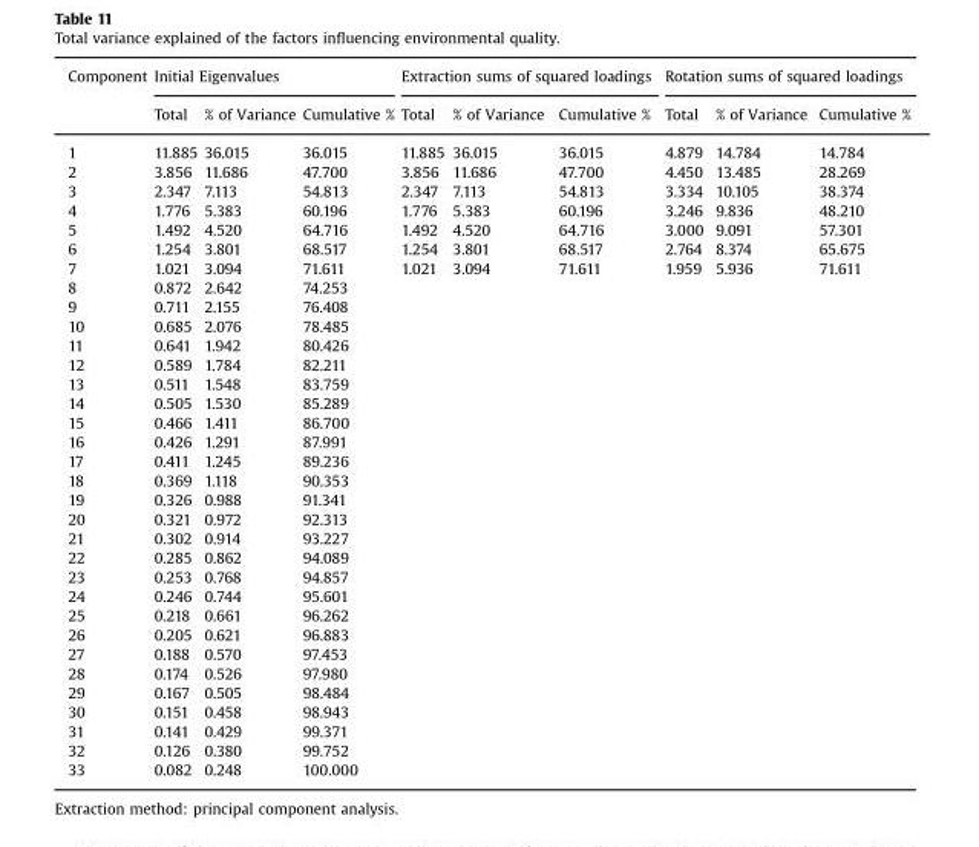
<table><thead><tr><td rowspan="2">Component</td><td colspan="3">Initial Eigenvalues</td><td colspan="3">Extraction sums of squared loadings</td><td colspan="3">Rotation sums of squared loadings</td></tr><tr><td>Total</td><td>% of Variance</td><td>Cumulative %</td><td>Total</td><td>% of Variance</td><td>Cumulative %</td><td>Total</td><td>% of Variance</td><td>Cumulative %</td></tr></thead><tbody><tr><td>1</td><td>11.885</td><td>36.015</td><td>36.015</td><td>11.885</td><td>36.015</td><td>36.015</td><td>4.879</td><td>14.784</td><td>14.784</td></tr><tr><td>2</td><td>3.856</td><td>11.686</td><td>47.700</td><td>3.856</td><td>11.686</td><td>47.700</td><td>4.450</td><td>13.485</td><td>28.269</td></tr><tr><td>3</td><td>2.347</td><td>7.113</td><td>54.813</td><td>2.347</td><td>7.113</td><td>54.813</td><td>3.334</td><td>10.105</td><td>38.374</td></tr><tr><td>4</td><td>1.776</td><td>5.383</td><td>60.196</td><td>1.776</td><td>5.383</td><td>60.196</td><td>3.246</td><td>9.836</td><td>48.210</td></tr><tr><td>5</td><td>1.492</td><td>4.520</td><td>64.716</td><td>1.492</td><td>4.520</td><td>64.716</td><td>3.000</td><td>9.091</td><td>57.301</td></tr><tr><td>6</td><td>1.254</td><td>3.801</td><td>68.517</td><td>1.254</td><td>3.801</td><td>68.517</td><td>2.764</td><td>8.374</td><td>65.675</td></tr><tr><td>7</td><td>1.021</td><td>3.094</td><td>71.611</td><td>1.021</td><td>3.094</td><td>71.611</td><td>1.959</td><td>5.936</td><td>71.611</td></tr><tr><td>8</td><td>0.872</td><td>2.642</td><td>74.253</td><td></td><td></td><td></td><td></td><td></td><td></td></tr><tr><td>9</td><td>0.711</td><td>2.155</td><td>76.408</td><td></td><td></td><td></td><td></td><td></td><td></td></tr><tr><td>10</td><td>0.685</td><td>2.076</td><td>78.485</td><td></td><td></td><td></td><td></td><td></td><td></td></tr><tr><td>11</td><td>0.641</td><td>1.942</td><td>80.426</td><td></td><td></td><td></td><td></td><td></td><td></td></tr><tr><td>12</td><td>0.589</td><td>1.784</td><td>82.211</td><td></td><td></td><td></td><td></td><td></td><td></td></tr><tr><td>13</td><td>0.511</td><td>1.548</td><td>83.759</td><td></td><td></td><td></td><td></td><td></td><td></td></tr><tr><td>14</td><td>0.505</td><td>1.530</td><td>85.289</td><td></td><td></td><td></td><td></td><td></td><td></td></tr><tr><td>15</td><td>0.466</td><td>1.411</td><td>86.700</td><td></td><td></td><td></td><td></td><td></td><td></td></tr><tr><td>16</td><td>0.426</td><td>1.291</td><td>87.991</td><td></td><td></td><td></td><td></td><td></td><td></td></tr><tr><td>17</td><td>0.411</td><td>1.245</td><td>89.236</td><td></td><td></td><td></td><td></td><td></td><td></td></tr><tr><td>18</td><td>0.369</td><td>1.118</td><td>90.353</td><td></td><td></td><td></td><td></td><td></td><td></td></tr><tr><td>19</td><td>0.326</td><td>0.988</td><td>91.341</td><td></td><td></td><td></td><td></td><td></td><td></td></tr><tr><td>20</td><td>0.321</td><td>0.972</td><td>92.313</td><td></td><td></td><td></td><td></td><td></td><td></td></tr><tr><td>21</td><td>0.302</td><td>0.914</td><td>93.227</td><td></td><td></td><td></td><td></td><td></td><td></td></tr><tr><td>22</td><td>0.285</td><td>0.862</td><td>94.089</td><td></td><td></td><td></td><td></td><td></td><td></td></tr><tr><td>23</td><td>0.253</td><td>0.768</td><td>94.857</td><td></td><td></td><td></td><td></td><td></td><td></td></tr><tr><td>24</td><td>0.246</td><td>0.744</td><td>95.601</td><td></td><td></td><td></td><td></td><td></td><td></td></tr><tr><td>25</td><td>0.218</td><td>0.661</td><td>96.262</td><td></td><td></td><td></td><td></td><td></td><td></td></tr><tr><td>26</td><td>0.205</td><td>0.621</td><td>96.883</td><td></td><td></td><td></td><td></td><td></td><td></td></tr><tr><td>27</td><td>0.188</td><td>0.570</td><td>97.453</td><td></td><td></td><td></td><td></td><td></td><td></td></tr><tr><td>28</td><td>0.174</td><td>0.526</td><td>97.980</td><td></td><td></td><td></td><td></td><td></td><td></td></tr><tr><td>29</td><td>0.167</td><td>0.505</td><td>98.484</td><td></td><td></td><td></td><td></td><td></td><td></td></tr><tr><td>30</td><td>0.151</td><td>0.458</td><td>98.943</td><td></td><td></td><td></td><td></td><td></td><td></td></tr><tr><td>31</td><td>0.141</td><td>0.429</td><td>99.371</td><td></td><td></td><td></td><td></td><td></td><td></td></tr><tr><td>32</td><td>0.126</td><td>0.380</td><td>99.752</td><td></td><td></td><td></td><td></td><td></td><td></td></tr><tr><td>33</td><td>0.082</td><td>0.248</td><td>100.000</td><td></td><td></td><td></td><td></td><td></td><td></td></tr></tbody></table>